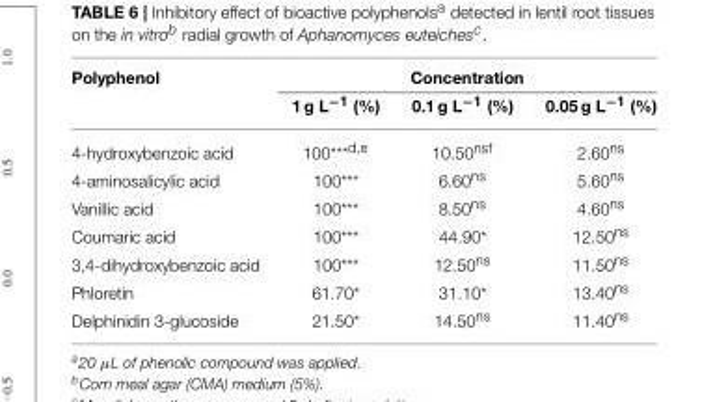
<table><thead><tr><td rowspan="2">Polyphenol</td><td colspan="3">Concentration</td></tr><tr><td>1 g L<sup>−1</sup> (%)</td><td>0.1 g L<sup>−1</sup> (%)</td><td>0.05 g L<sup>−1</sup> (%)</td></tr></thead><tbody><tr><td>4-hydroxybenzoic acid</td><td>100<sup>***d,e</sup></td><td>10.50<sup>nsf</sup></td><td>2.60<sup>ns</sup></td></tr><tr><td>4-aminosalicylic acid</td><td>100***</td><td>6.60<sup>ns</sup></td><td>5.60<sup>ns</sup></td></tr><tr><td>Vanillic acid</td><td>100***</td><td>8.50<sup>ns</sup></td><td>4.60<sup>ns</sup></td></tr><tr><td>Coumaric acid</td><td>100***</td><td>44.90*</td><td>12.50<sup>ns</sup></td></tr><tr><td>3,4-dihydroxybenzoic acid</td><td>100***</td><td>12.50<sup>ns</sup></td><td>11.50<sup>ns</sup></td></tr><tr><td>Phloretin</td><td>61.70*</td><td>31.10*</td><td>13.40<sup>ns</sup></td></tr><tr><td>Delphinidin 3-glucoside</td><td>21.50*</td><td>14.50<sup>ns</sup></td><td>11.40<sup>ns</sup></td></tr></tbody></table>